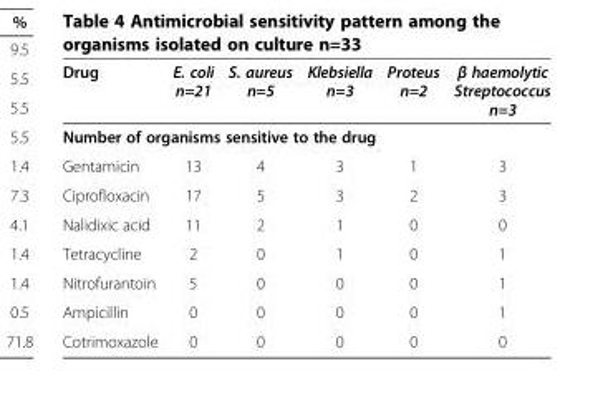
<table><thead><tr><td>Drug</td><td>E. coli n=21</td><td>S. aureus n=5</td><td>Klebsiella n=3</td><td>Proteus n=2</td><td>β haemolytic Streptococcus n=3</td></tr></thead><tbody><tr><td colspan="6">Number of organisms sensitive to the drug</td></tr><tr><td>Gentamicin</td><td>13</td><td>4</td><td>3</td><td>1</td><td>3</td></tr><tr><td>Ciprofloxacin</td><td>17</td><td>5</td><td>3</td><td>2</td><td>3</td></tr><tr><td>Nalidixic acid</td><td>11</td><td>2</td><td>1</td><td>0</td><td>0</td></tr><tr><td>Tetracycline</td><td>2</td><td>0</td><td>1</td><td>0</td><td>1</td></tr><tr><td>Nitrofurantoin</td><td>5</td><td>0</td><td>0</td><td>0</td><td>1</td></tr><tr><td>Ampicillin</td><td>0</td><td>0</td><td>0</td><td>0</td><td>1</td></tr><tr><td>Cotrimoxazole</td><td>0</td><td>0</td><td>0</td><td>0</td><td>0</td></tr></tbody></table>